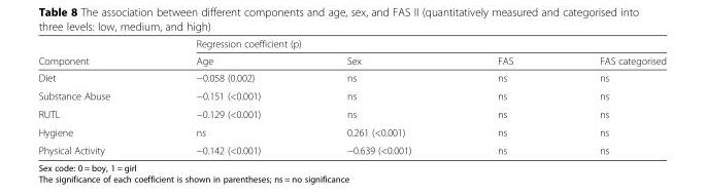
<table><thead><tr><td rowspan="2">Component</td><td colspan="4">Regression coefficient (p)</td></tr><tr><td>Age</td><td>Sex</td><td>FAS</td><td>FAS categorised</td></tr></thead><tbody><tr><td>Diet</td><td>−0.058 (0.002)</td><td>ns</td><td>ns</td><td>ns</td></tr><tr><td>Substance Abuse</td><td>−0.151 (&lt;0.001)</td><td>ns</td><td>ns</td><td>ns</td></tr><tr><td>RUTL</td><td>−0.129 (&lt;0.001)</td><td>ns</td><td>ns</td><td>ns</td></tr><tr><td>Hygiene</td><td>ns</td><td>0.261 (&lt;0.001)</td><td>ns</td><td>ns</td></tr><tr><td>Physical Activity</td><td>−0.142 (&lt;0.001)</td><td>−0.639 (&lt;0.001)</td><td>ns</td><td>ns</td></tr></tbody></table>